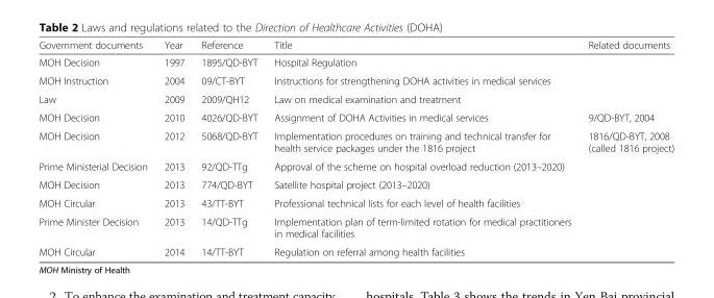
<table><thead><tr><td>Government documents</td><td>Year</td><td>Reference</td><td>Title</td><td>Related documents</td></tr></thead><tbody><tr><td>MOH Decision</td><td>1997</td><td>1895/QD-BYT</td><td>Hospital Regulation</td><td></td></tr><tr><td>MOH Instruction</td><td>2004</td><td>09/CT-BYT</td><td>Instructions for strengthening DOHA activities in medical services</td><td></td></tr><tr><td>Law</td><td>2009</td><td>2009/QH12</td><td>Law on medical examination and treatment</td><td></td></tr><tr><td>MOH Decision</td><td>2010</td><td>4026/QD-BYT</td><td>Assignment of DOHA Activities in medical services</td><td>9/QD-BYT, 2004</td></tr><tr><td>MOH Decision</td><td>2012</td><td>5068/QD-BYT</td><td>Implementation procedures on training and technical transfer for health service packages under the 1816 project</td><td>1816/QD-BYT, 2008 (called 1816 project)</td></tr><tr><td>Prime Ministerial Decision</td><td>2013</td><td>92/QD-TTg</td><td>Approval of the scheme on hospital overload reduction (2013–2020)</td><td></td></tr><tr><td>MOH Decision</td><td>2013</td><td>774/QD-BYT</td><td>Satellite hospital project (2013–2020)</td><td></td></tr><tr><td>MOH Circular</td><td>2013</td><td>43/TT-BYT</td><td>Professional technical lists for each level of health facilities</td><td></td></tr><tr><td>Prime Minister Decision</td><td>2013</td><td>14/QD-TTg</td><td>Implementation plan of term-limited rotation for medical practitioners in medical facilities</td><td></td></tr><tr><td>MOH Circular</td><td>2014</td><td>14/TT-BYT</td><td>Regulation on referral among health facilities</td><td></td></tr></tbody></table>